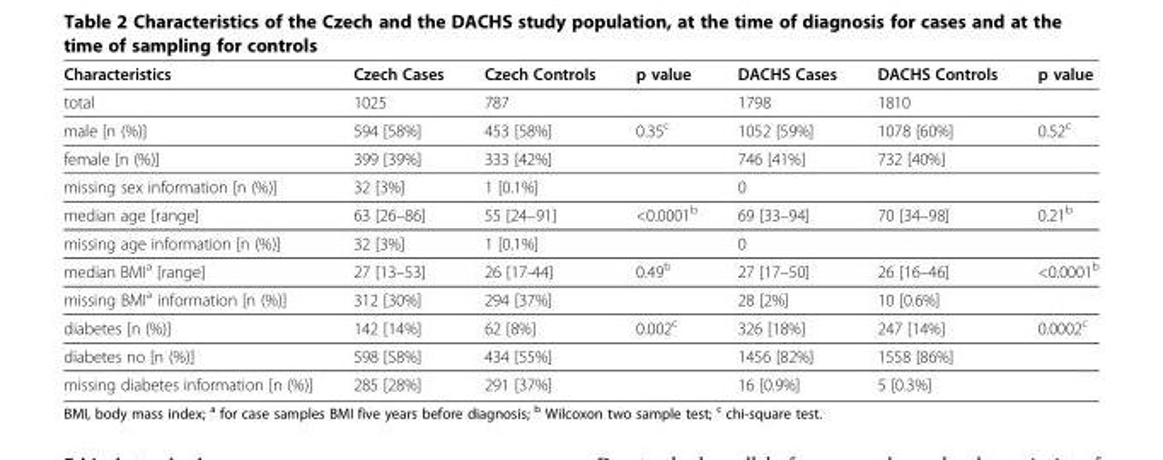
<table><thead><tr><td>Characteristics</td><td>Czech Cases</td><td>Czech Controls</td><td>p value</td><td>DACHS Cases</td><td>DACHS Controls</td><td>p value</td></tr></thead><tbody><tr><td>total</td><td>1025</td><td>787</td><td></td><td>1798</td><td>1810</td><td></td></tr><tr><td>male [n (%)]</td><td>594 [58%]</td><td>453 [58%]</td><td>0.35<sup>c</sup></td><td>1052 [59%]</td><td>1078 [60%]</td><td>0.52<sup>c</sup></td></tr><tr><td>female [n (%)]</td><td>399 [39%]</td><td>333 [42%]</td><td></td><td>746 [41%]</td><td>732 [40%]</td><td></td></tr><tr><td>missing sex information [n (%)]</td><td>32 [3%]</td><td>1 [0.1%]</td><td></td><td>0</td><td></td><td></td></tr><tr><td>median age [range]</td><td>63 [26–86]</td><td>55 [24–91]</td><td>&lt;0.0001<sup>b</sup></td><td>69 [33–94]</td><td>70 [34–98]</td><td>0.21<sup>b</sup></td></tr><tr><td>missing age information [n (%)]</td><td>32 [3%]</td><td>1 [0.1%]</td><td></td><td>0</td><td></td><td></td></tr><tr><td>median BMI<sup>a</sup> [range]</td><td>27 [13–53]</td><td>26 [17-44]</td><td>0.49<sup>b</sup></td><td>27 [17–50]</td><td>26 [16–46]</td><td>&lt;0.0001<sup>b</sup></td></tr><tr><td>missing BMI<sup>a</sup> information [n (%)]</td><td>312 [30%]</td><td>294 [37%]</td><td></td><td>28 [2%]</td><td>10 [0.6%]</td><td></td></tr><tr><td>diabetes [n (%)]</td><td>142 [14%]</td><td>62 [8%]</td><td>0.002<sup>c</sup></td><td>326 [18%]</td><td>247 [14%]</td><td>0.0002<sup>c</sup></td></tr><tr><td>diabetes no [n (%)]</td><td>598 [58%]</td><td>434 [55%]</td><td></td><td>1456 [82%]</td><td>1558 [86%]</td><td></td></tr><tr><td>missing diabetes information [n (%)]</td><td>285 [28%]</td><td>291 [37%]</td><td></td><td>16 [0.9%]</td><td>5 [0.3%]</td><td></td></tr></tbody></table>